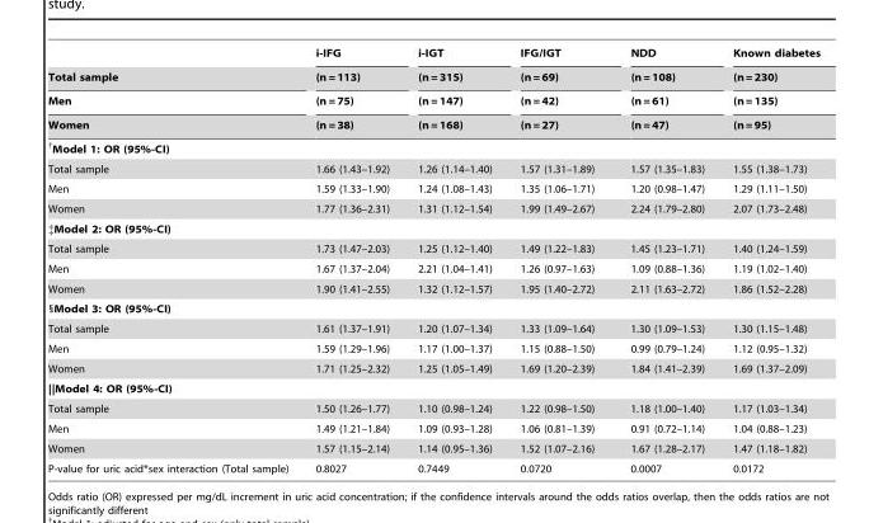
<table><thead><tr><td rowspan="4">Total sample Men Women</td><td rowspan="4">i-IFG (n = 113) (n = 75) (n = 38)</td><td rowspan="4">i-IGT (n = 315) (n = 147) (n = 168)</td><td rowspan="4">IFG/IGT (n = 69) (n = 42) (n = 27)</td><td rowspan="4">NDD (n = 108) (n = 61) (n = 47)</td><td rowspan="4">Known diabetes (n = 230) (n = 135) (n = 95)</td></tr><tr></tr><tr></tr><tr></tr></thead><tbody><tr><td colspan="6">†Model 1: OR (95%-CI)</td></tr><tr><td>Total sample</td><td>1.66 (1.43–1.92)</td><td>1.26 (1.14–1.40)</td><td>1.57 (1.31–1.89)</td><td>1.57 (1.35–1.83)</td><td>1.55 (1.38–1.73)</td></tr><tr><td>Men</td><td>1.59 (1.33–1.90)</td><td>1.24 (1.08–1.43)</td><td>1.35 (1.06–1.71)</td><td>1.20 (0.98–1.47)</td><td>1.29 (1.11–1.50)</td></tr><tr><td>Women</td><td>1.77 (1.36–2.31)</td><td>1.31 (1.12–1.54)</td><td>1.99 (1.49–2.67)</td><td>2.24 (1.79–2.80)</td><td>2.07 (1.73–2.48)</td></tr><tr><td colspan="6">‡Model 2: OR (95%-CI)</td></tr><tr><td>Total sample</td><td>1.73 (1.47–2.03)</td><td>1.25 (1.12–1.40)</td><td>1.49 (1.22–1.83)</td><td>1.45 (1.23–1.71)</td><td>1.40 (1.24–1.59)</td></tr><tr><td>Men</td><td>1.67 (1.37–2.04)</td><td>2.21 (1.04–1.41)</td><td>1.26 (0.97–1.63)</td><td>1.09 (0.88–1.36)</td><td>1.19 (1.02–1.40)</td></tr><tr><td>Women</td><td>1.90 (1.41–2.55)</td><td>1.32 (1.12–1.57)</td><td>1.95 (1.40–2.72)</td><td>2.11 (1.63–2.72)</td><td>1.86 (1.52–2.28)</td></tr><tr><td colspan="6">§Model 3: OR (95%-CI)</td></tr><tr><td>Total sample</td><td>1.61 (1.37–1.91)</td><td>1.20 (1.07–1.34)</td><td>1.33 (1.09–1.64)</td><td>1.30 (1.09–1.53)</td><td>1.30 (1.15–1.48)</td></tr><tr><td>Men</td><td>1.59 (1.29–1.96)</td><td>1.17 (1.00–1.37)</td><td>1.15 (0.88–1.50)</td><td>0.99 (0.79–1.24)</td><td>1.12 (0.95–1.32)</td></tr><tr><td>Women</td><td>1.71 (1.25–2.32)</td><td>1.25 (1.05–1.49)</td><td>1.69 (1.20–2.39)</td><td>1.84 (1.41–2.39)</td><td>1.69 (1.37–2.09)</td></tr><tr><td colspan="6">||Model 4: OR (95%-CI)</td></tr><tr><td>Total sample</td><td>1.50 (1.26–1.77)</td><td>1.10 (0.98–1.24)</td><td>1.22 (0.98–1.50)</td><td>1.18 (1.00–1.40)</td><td>1.17 (1.03–1.34)</td></tr><tr><td>Men</td><td>1.49 (1.21–1.84)</td><td>1.09 (0.93–1.28)</td><td>1.06 (0.81–1.39)</td><td>0.91 (0.72–1.14)</td><td>1.04 (0.88–1.23)</td></tr><tr><td>Women</td><td>1.57 (1.15–2.14)</td><td>1.14 (0.95–1.36)</td><td>1.52 (1.07–2.16)</td><td>1.67 (1.28–2.17)</td><td>1.47 (1.18–1.82)</td></tr><tr><td>P-value for uric acid*sex interaction (Total sample)</td><td>0.8027</td><td>0.7449</td><td>0.0720</td><td>0.0007</td><td>0.0172</td></tr></tbody></table>